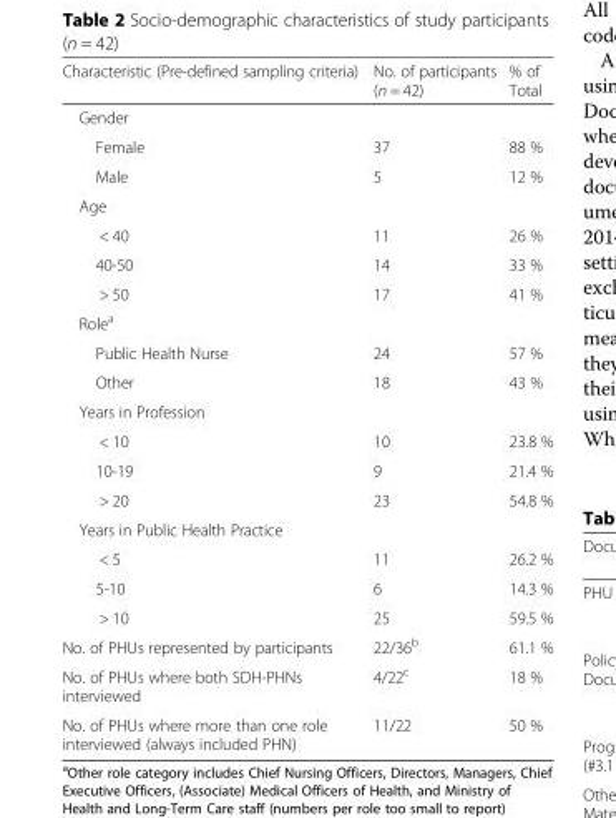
<table><thead><tr><td>Characteristic (Pre-defined sampling criteria)</td><td>No. of participants (n = 42)</td><td>% of Total</td></tr></thead><tbody><tr><td colspan="3">Gender</td></tr><tr><td>Female</td><td>37</td><td>88 %</td></tr><tr><td>Male</td><td>5</td><td>12 %</td></tr><tr><td colspan="3">Age</td></tr><tr><td>&lt; 40</td><td>11</td><td>26 %</td></tr><tr><td>40-50</td><td>14</td><td>33 %</td></tr><tr><td>&gt; 50</td><td>17</td><td>41 %</td></tr><tr><td colspan="3">Role<sup>a</sup></td></tr><tr><td>Public Health Nurse</td><td>24</td><td>57 %</td></tr><tr><td>Other</td><td>18</td><td>43 %</td></tr><tr><td colspan="3">Years in Profession</td></tr><tr><td>&lt; 10</td><td>10</td><td>23.8 %</td></tr><tr><td>10-19</td><td>9</td><td>21.4 %</td></tr><tr><td>&gt; 20</td><td>23</td><td>54.8 %</td></tr><tr><td colspan="3">Years in Public Health Practice</td></tr><tr><td>&lt; 5</td><td>11</td><td>26.2 %</td></tr><tr><td>5-10</td><td>6</td><td>14.3 %</td></tr><tr><td>&gt; 10</td><td>25</td><td>59.5 %</td></tr><tr><td>No. of PHUs represented by participants</td><td>22/36<sup>b</sup></td><td>61.1 %</td></tr><tr><td>No. of PHUs where both SDH-PHNs interviewed</td><td>4/22<sup>c</sup></td><td>18 %</td></tr><tr><td>No. of PHUs where more than one role interviewed (always included PHN)</td><td>11/22</td><td>50 %</td></tr></tbody></table>